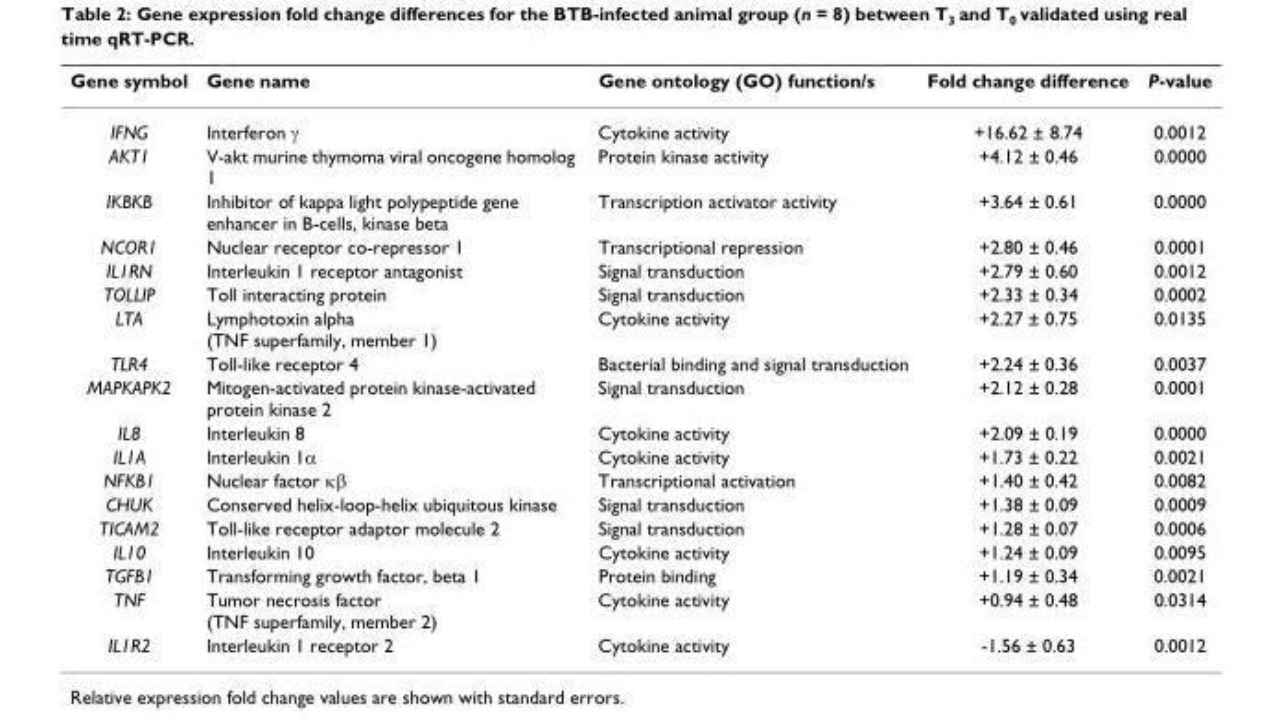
<table><thead><tr><td>Gene symbol</td><td>Gene name</td><td>Gene ontology (GO) function/s</td><td>Fold change difference</td><td>P-value</td></tr></thead><tbody><tr><td>IFNG</td><td>Interferon γ</td><td>Cytokine activity</td><td>+16.62 ± 8.74</td><td>0.0012</td></tr><tr><td>AKT1</td><td>V-akt murine thymoma viral oncogene homolog 1</td><td>Protein kinase activity</td><td>+4.12 ± 0.46</td><td>0.0000</td></tr><tr><td>IKBKB</td><td>Inhibitor of kappa light polypeptide gene enhancer in B-cells, kinase beta</td><td>Transcription activator activity</td><td>+3.64 ± 0.61</td><td>0.0000</td></tr><tr><td>NCOR1</td><td>Nuclear receptor co-repressor 1</td><td>Transcriptional repression</td><td>+2.80 ± 0.46</td><td>0.0001</td></tr><tr><td>IL1RN</td><td>Interleukin 1 receptor antagonist</td><td>Signal transduction</td><td>+2.79 ± 0.60</td><td>0.0012</td></tr><tr><td>TOLLIP</td><td>Toll interacting protein</td><td>Signal transduction</td><td>+2.33 ± 0.34</td><td>0.0002</td></tr><tr><td>LTA</td><td>Lymphotoxin alpha (TNF superfamily, member 1)</td><td>Cytokine activity</td><td>+2.27 ± 0.75</td><td>0.0135</td></tr><tr><td>TLR4</td><td>Toll-like receptor 4</td><td>Bacterial binding and signal transduction</td><td>+2.24 ± 0.36</td><td>0.0037</td></tr><tr><td>MAPKAPK2</td><td>Mitogen-activated protein kinase-activated protein kinase 2</td><td>Signal transduction</td><td>+2.12 ± 0.28</td><td>0.0001</td></tr><tr><td>IL8</td><td>Interleukin 8</td><td>Cytokine activity</td><td>+2.09 ± 0.19</td><td>0.0000</td></tr><tr><td>IL1A</td><td>Interleukin 1α</td><td>Cytokine activity</td><td>+1.73 ± 0.22</td><td>0.0021</td></tr><tr><td>NFKB1</td><td>Nuclear factor κβ</td><td>Transcriptional activation</td><td>+1.40 ± 0.42</td><td>0.0082</td></tr><tr><td>CHUK</td><td>Conserved helix-loop-helix ubiquitous kinase</td><td>Signal transduction</td><td>+1.38 ± 0.09</td><td>0.0009</td></tr><tr><td>TICAM2</td><td>Toll-like receptor adaptor molecule 2</td><td>Signal transduction</td><td>+1.28 ± 0.07</td><td>0.0006</td></tr><tr><td>IL10</td><td>Interleukin 10</td><td>Cytokine activity</td><td>+1.24 ± 0.09</td><td>0.0095</td></tr><tr><td>TGFB1</td><td>Transforming growth factor, beta 1</td><td>Protein binding</td><td>+1.19 ± 0.34</td><td>0.0021</td></tr><tr><td>TNF</td><td>Tumor necrosis factor (TNF superfamily, member 2)</td><td>Cytokine activity</td><td>+0.94 ± 0.48</td><td>0.0314</td></tr><tr><td>IL1R2</td><td>Interleukin 1 receptor 2</td><td>Cytokine activity</td><td>-1.56 ± 0.63</td><td>0.0012</td></tr></tbody></table>